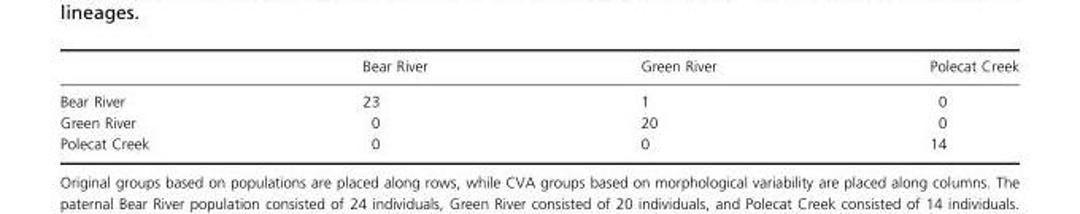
<table><thead><tr><td></td><td>Bear River</td><td>Green River</td><td>Polecat Creek</td></tr></thead><tbody><tr><td>Bear River</td><td>23</td><td>1</td><td>0</td></tr><tr><td>Green River</td><td>0</td><td>20</td><td>0</td></tr><tr><td>Polecat Creek</td><td>0</td><td>0</td><td>14</td></tr></tbody></table>